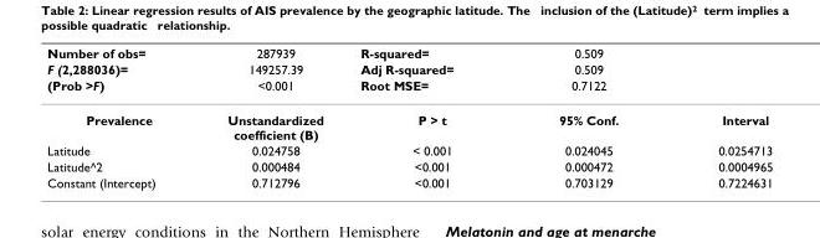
<table><thead><tr><td rowspan="3">Number of obs= F (2,288036)= (Prob &gt;F)</td><td rowspan="3">287939 149257.39 &lt;0.001</td><td rowspan="3">R-squared= Adj R-squared= Root MSE=</td><td rowspan="3">0.509 0.509 0.7122</td><td rowspan="3"></td></tr><tr></tr><tr></tr></thead><tbody><tr><td>Prevalence</td><td>Unstandardized coefficient (B)</td><td>P &gt; t</td><td>95% Conf.</td><td>Interval</td></tr><tr><td>Latitude</td><td>0.024758</td><td>&lt; 0.001</td><td>0.024045</td><td>0.0254713</td></tr><tr><td>Latitude^2</td><td>0.000484</td><td>&lt;0.001</td><td>0.000472</td><td>0.0004965</td></tr><tr><td>Constant (Intercept)</td><td>0.712796</td><td>&lt;0.001</td><td>0.703129</td><td>0.7224631</td></tr></tbody></table>